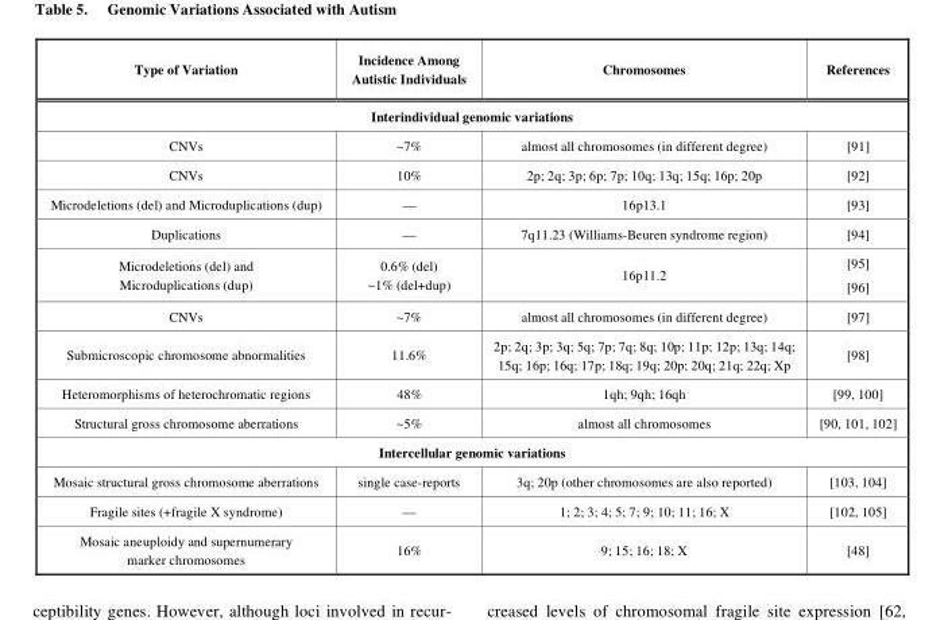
<table><thead><tr><td>Type of Variation</td><td>Incidence Among Autistic Individuals</td><td>Chromosomes</td><td>References</td></tr></thead><tbody><tr><td colspan="4">Interindividual genomic variations</td></tr><tr><td>CNVs</td><td>~7%</td><td>almost all chromosomes (in different degree)</td><td>[91]</td></tr><tr><td>CNVs</td><td>10%</td><td>2p; 2q; 3p; 6p; 7p; 10q; 13q; 15q; 16p; 20p</td><td>[92]</td></tr><tr><td>Microdeletions (del) and Microduplications (dup)</td><td>—</td><td>16p13.1</td><td>[93]</td></tr><tr><td>Duplications</td><td>—</td><td>7q11.23 (Williams-Beuren syndrome region)</td><td>[94]</td></tr><tr><td>Microdeletions (del) and Microduplications (dup)</td><td>0.6% (del) ~1% (del+dup)</td><td>16p11.2</td><td>[95] [96]</td></tr><tr><td>CNVs</td><td>~7%</td><td>almost all chromosomes (in different degree)</td><td>[97]</td></tr><tr><td>Submicroscopic chromosome abnormalities</td><td>11.6%</td><td>2p; 2q; 3p; 3q; 5q; 7p; 7q; 8q; 10p; 11p; 12p; 13q; 14q; 15q; 16p; 16q; 17p; 18q; 19q; 20p; 20q; 21q; 22q; Xp</td><td>[98]</td></tr><tr><td>Heteromorphisms of heterochromatic regions</td><td>48%</td><td>1qh; 9qh; 16qh</td><td>[99, 100]</td></tr><tr><td>Structural gross chromosome aberrations</td><td>~5%</td><td>almost all chromosomes</td><td>[90, 101, 102]</td></tr><tr><td colspan="4">Intercellular genomic variations</td></tr><tr><td>Mosaic structural gross chromosome aberrations</td><td>single case-reports</td><td>3q; 20p (other chromosomes are also reported)</td><td>[103, 104]</td></tr><tr><td>Fragile sites (+fragile X syndrome)</td><td>—</td><td>1; 2; 3; 4; 5; 7; 9; 10; 11; 16; X</td><td>[102, 105]</td></tr><tr><td>Mosaic aneuploidy and supernumerary marker chromosomes</td><td>16%</td><td>9; 15; 16; 18; X</td><td>[48]</td></tr></tbody></table>